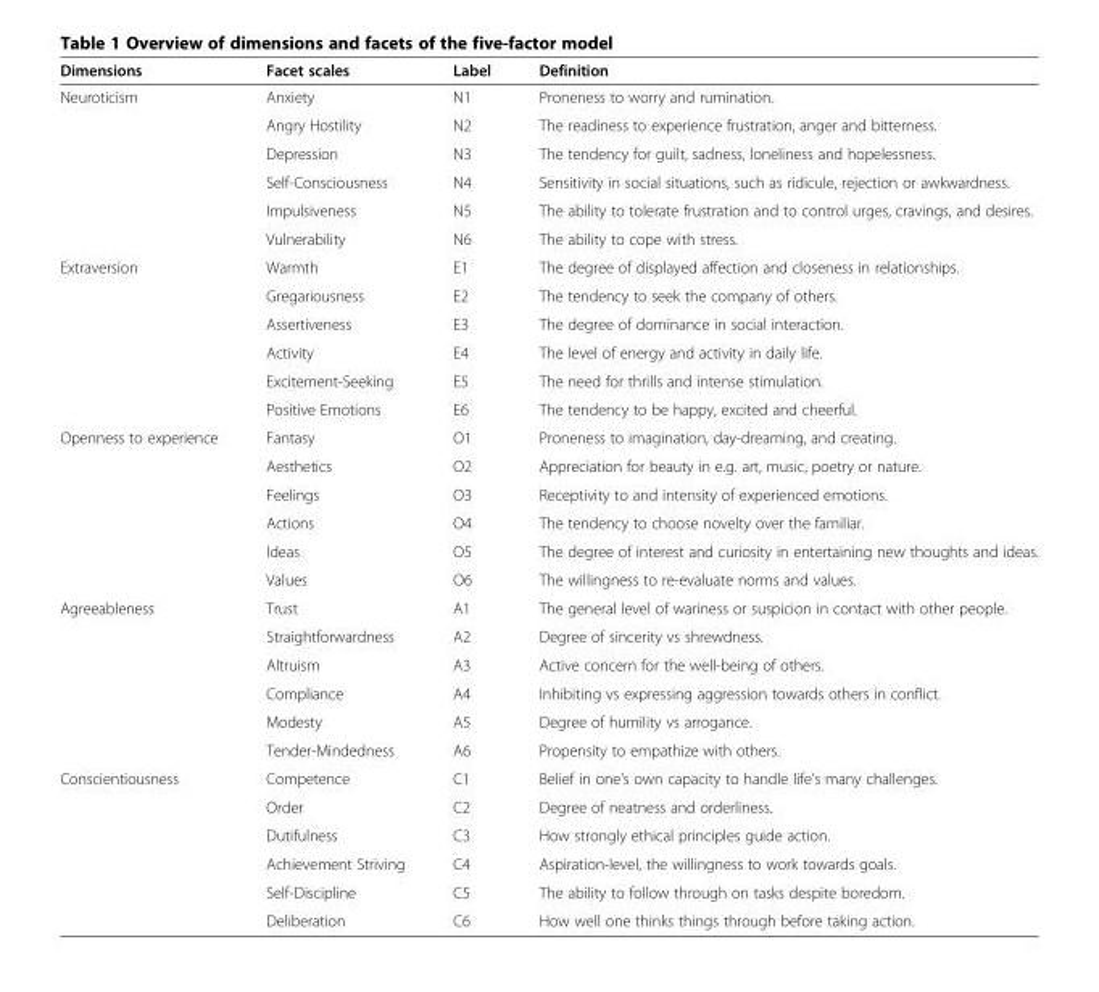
<table><thead><tr><td>Dimensions</td><td>Facet scales</td><td>Label</td><td>Definition</td></tr></thead><tbody><tr><td rowspan="6">Neuroticism</td><td>Anxiety</td><td>N1</td><td>Proneness to worry and rumination.</td></tr><tr><td>Angry Hostility</td><td>N2</td><td>The readiness to experience frustration, anger and bitterness.</td></tr><tr><td>Depression</td><td>N3</td><td>The tendency for guilt, sadness, loneliness and hopelessness.</td></tr><tr><td>Self-Consciousness</td><td>N4</td><td>Sensitivity in social situations, such as ridicule, rejection or awkwardness.</td></tr><tr><td>Impulsiveness</td><td>N5</td><td>The ability to tolerate frustration and to control urges, cravings, and desires.</td></tr><tr><td>Vulnerability</td><td>N6</td><td>The ability to cope with stress.</td></tr><tr><td rowspan="6">Extraversion</td><td>Warmth</td><td>E1</td><td>The degree of displayed affection and closeness in relationships.</td></tr><tr><td>Gregariousness</td><td>E2</td><td>The tendency to seek the company of others.</td></tr><tr><td>Assertiveness</td><td>E3</td><td>The degree of dominance in social interaction.</td></tr><tr><td>Activity</td><td>E4</td><td>The level of energy and activity in daily life.</td></tr><tr><td>Excitement-Seeking</td><td>E5</td><td>The need for thrills and intense stimulation.</td></tr><tr><td>Positive Emotions</td><td>E6</td><td>The tendency to be happy, excited and cheerful.</td></tr><tr><td rowspan="6">Openness to experience</td><td>Fantasy</td><td>O1</td><td>Proneness to imagination, day-dreaming, and creating.</td></tr><tr><td>Aesthetics</td><td>O2</td><td>Appreciation for beauty in e.g. art, music, poetry or nature.</td></tr><tr><td>Feelings</td><td>O3</td><td>Receptivity to and intensity of experienced emotions.</td></tr><tr><td>Actions</td><td>O4</td><td>The tendency to choose novelty over the familiar.</td></tr><tr><td>Ideas</td><td>O5</td><td>The degree of interest and curiosity in entertaining new thoughts and ideas.</td></tr><tr><td>Values</td><td>O6</td><td>The willingness to re-evaluate norms and values.</td></tr><tr><td rowspan="6">Agreeableness</td><td>Trust</td><td>A1</td><td>The general level of wariness or suspicion in contact with other people.</td></tr><tr><td>Straightforwardness</td><td>A2</td><td>Degree of sincerity vs shrewdness.</td></tr><tr><td>Altruism</td><td>A3</td><td>Active concern for the well-being of others.</td></tr><tr><td>Compliance</td><td>A4</td><td>Inhibiting vs expressing aggression towards others in conflict.</td></tr><tr><td>Modesty</td><td>A5</td><td>Degree of humility vs arrogance.</td></tr><tr><td>Tender-Mindedness</td><td>A6</td><td>Propensity to empathize with others.</td></tr><tr><td rowspan="6">Conscientiousness</td><td>Competence</td><td>C1</td><td>Belief in one’s own capacity to handle life’s many challenges.</td></tr><tr><td>Order</td><td>C2</td><td>Degree of neatness and orderliness.</td></tr><tr><td>Dutifulness</td><td>C3</td><td>How strongly ethical principles guide action.</td></tr><tr><td>Achievement Striving</td><td>C4</td><td>Aspiration-level, the willingness to work towards goals.</td></tr><tr><td>Self-Discipline</td><td>C5</td><td>The ability to follow through on tasks despite boredom.</td></tr><tr><td>Deliberation</td><td>C6</td><td>How well one thinks things through before taking action.</td></tr></tbody></table>